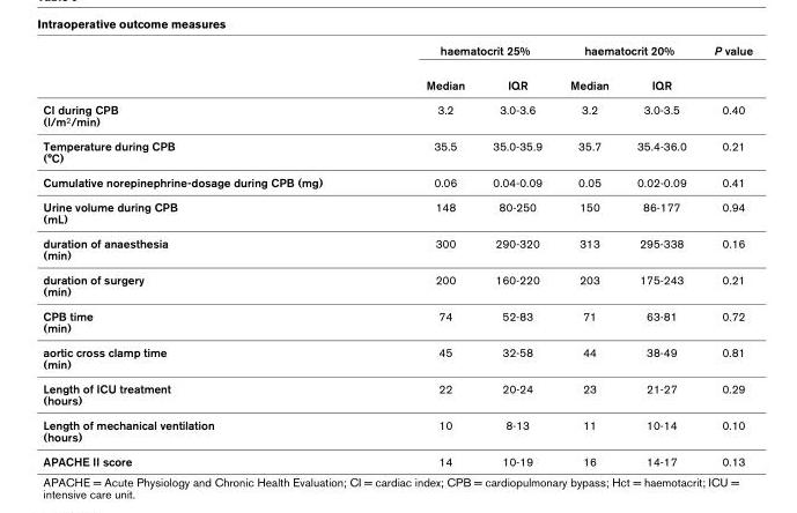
<table><thead><tr><td rowspan="2"></td><td colspan="2">haematocrit 25%</td><td colspan="2">haematocrit 20%</td><td rowspan="2">P value</td></tr><tr><td>Median</td><td>IQR</td><td>Median</td><td>IQR</td></tr></thead><tbody><tr><td>CI during CPB (l/m<sup>2</sup>/min)</td><td>3.2</td><td>3.0-3.6</td><td>3.2</td><td>3.0-3.5</td><td>0.40</td></tr><tr><td>Temperature during CPB (°C)</td><td>35.5</td><td>35.0-35.9</td><td>35.7</td><td>35.4-36.0</td><td>0.21</td></tr><tr><td>Cumulative norepinephrine-dosage during CPB (mg)</td><td>0.06</td><td>0.04-0.09</td><td>0.05</td><td>0.02-0.09</td><td>0.41</td></tr><tr><td>Urine volume during CPB (mL)</td><td>148</td><td>80-250</td><td>150</td><td>86-177</td><td>0.94</td></tr><tr><td>duration of anaesthesia (min)</td><td>300</td><td>290-320</td><td>313</td><td>295-338</td><td>0.16</td></tr><tr><td>duration of surgery (min)</td><td>200</td><td>160-220</td><td>203</td><td>175-243</td><td>0.21</td></tr><tr><td>CPB time (min)</td><td>74</td><td>52-83</td><td>71</td><td>63-81</td><td>0.72</td></tr><tr><td>aortic cross clamp time (min)</td><td>45</td><td>32-58</td><td>44</td><td>38-49</td><td>0.81</td></tr><tr><td>Length of ICU treatment (hours)</td><td>22</td><td>20-24</td><td>23</td><td>21-27</td><td>0.29</td></tr><tr><td>Length of mechanical ventilation (hours)</td><td>10</td><td>8-13</td><td>11</td><td>10-14</td><td>0.10</td></tr><tr><td>APACHE II score</td><td>14</td><td>10-19</td><td>16</td><td>14-17</td><td>0.13</td></tr></tbody></table>